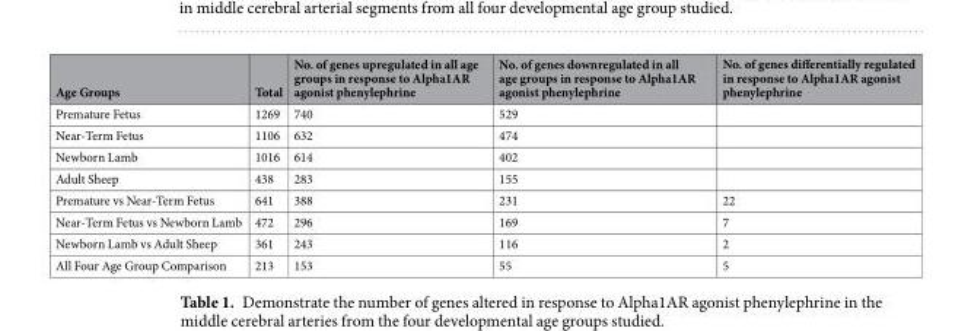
<table><thead><tr><td>Age Groups</td><td>Total</td><td>No. of genes upregulated in all age groups in response to Alpha1AR agonist phenylephrine</td><td>No. of genes downregulated in all age groups in response to Alpha1AR agonist phenylephrine</td><td>No. of genes differentially regulated in response to Alpha1AR agonist phenylephrine</td></tr></thead><tbody><tr><td>Premature Fetus</td><td>1269</td><td>740</td><td>529</td><td></td></tr><tr><td>Near-Term Fetus</td><td>1106</td><td>632</td><td>474</td><td></td></tr><tr><td>Newborn Lamb</td><td>1016</td><td>614</td><td>402</td><td></td></tr><tr><td>Adult Sheep</td><td>438</td><td>283</td><td>155</td><td></td></tr><tr><td>Premature vs Near-Term Fetus</td><td>641</td><td>388</td><td>231</td><td>22</td></tr><tr><td>Near-Term Fetus vs Newborn Lamb</td><td>472</td><td>296</td><td>169</td><td>7</td></tr><tr><td>Newborn Lamb vs Adult Sheep</td><td>361</td><td>243</td><td>116</td><td>2</td></tr><tr><td>All Four Age Group Comparison</td><td>213</td><td>153</td><td>55</td><td>5</td></tr></tbody></table>